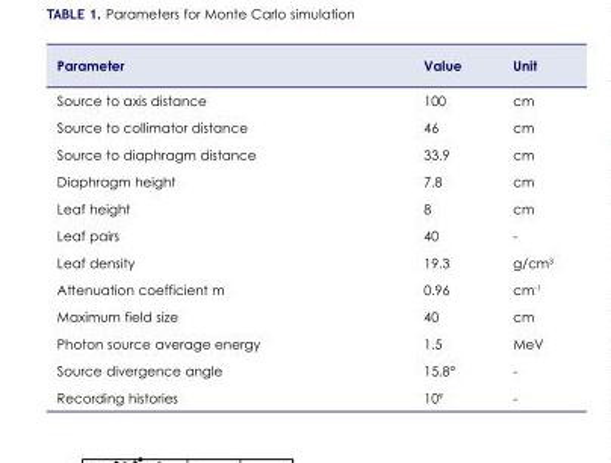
<table><thead><tr><td>Parameter</td><td>Value</td><td>Unit</td></tr></thead><tbody><tr><td>Source to axis distance</td><td>100</td><td>cm</td></tr><tr><td>Source to collimator distance</td><td>46</td><td>cm</td></tr><tr><td>Source to diaphragm distance</td><td>33.9</td><td>cm</td></tr><tr><td>Diaphragm height</td><td>7.8</td><td>cm</td></tr><tr><td>Leaf height</td><td>8</td><td>cm</td></tr><tr><td>Leaf pairs</td><td>40</td><td>-</td></tr><tr><td>Leaf density</td><td>19.3</td><td>g/cm<sup>3</sup></td></tr><tr><td>Attenuation coefficient m</td><td>0.96</td><td>cm<sup>-1</sup></td></tr><tr><td>Maximum field size</td><td>40</td><td>cm</td></tr><tr><td>Photon source average energy</td><td>1.5</td><td>MeV</td></tr><tr><td>Source divergence angle</td><td>15.8°</td><td>-</td></tr><tr><td>Recording histories</td><td>10<sup>9</sup></td><td>-</td></tr></tbody></table>